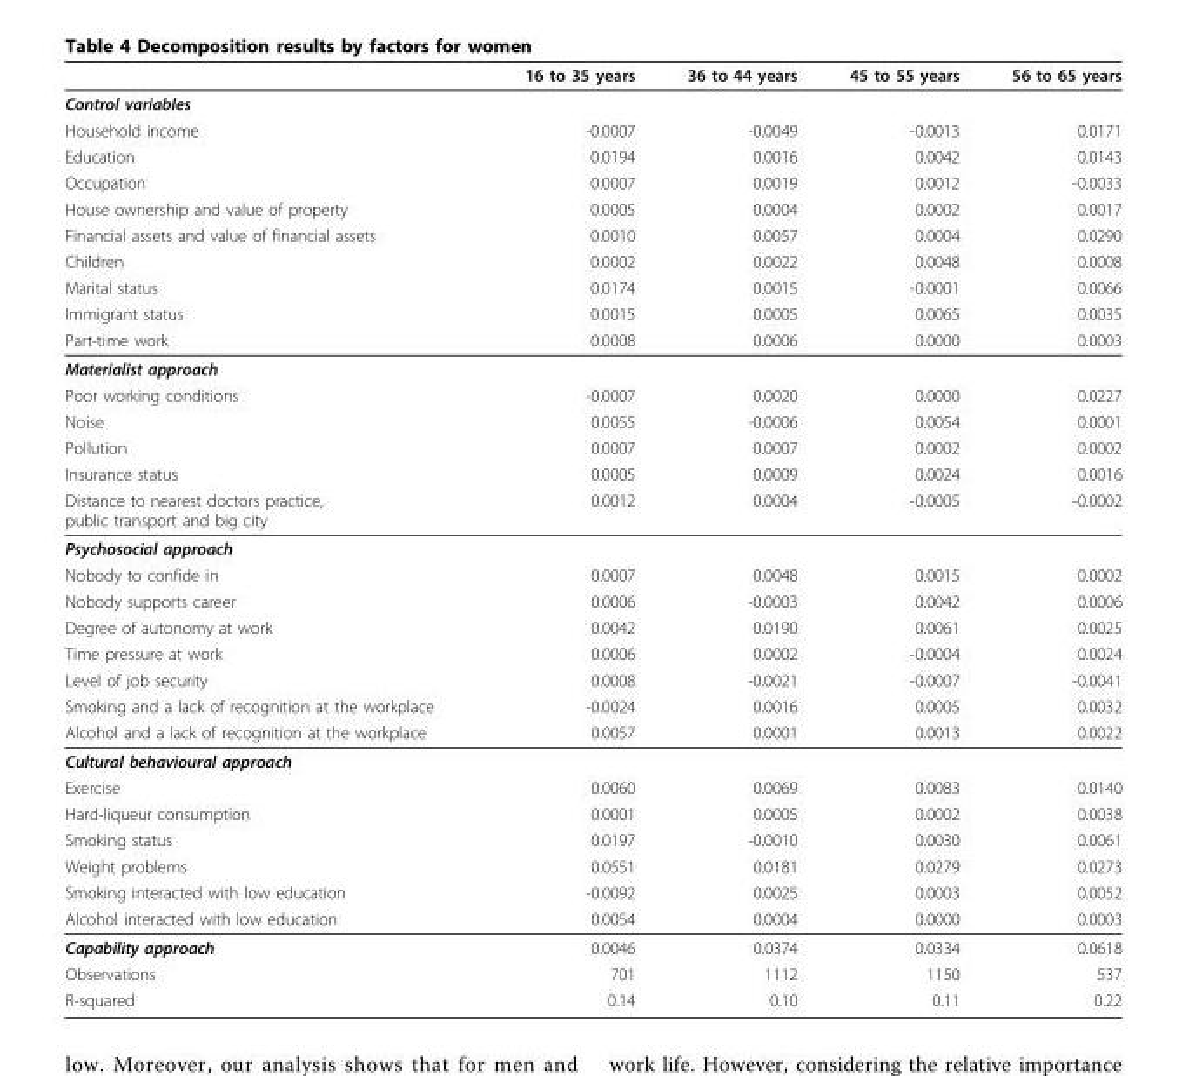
<table><thead><tr><td></td><td>16 to 35 years</td><td>36 to 44 years</td><td>45 to 55 years</td><td>56 to 65 years</td></tr></thead><tbody><tr><td colspan="5">Control variables</td></tr><tr><td>Household income</td><td>-0.0007</td><td>-0.0049</td><td>-0.0013</td><td>0.0171</td></tr><tr><td>Education</td><td>0.0194</td><td>0.0016</td><td>0.0042</td><td>0.0143</td></tr><tr><td>Occupation</td><td>0.0007</td><td>0.0019</td><td>0.0012</td><td>-0.0033</td></tr><tr><td>House ownership and value of property</td><td>0.0005</td><td>0.0004</td><td>0.0002</td><td>0.0017</td></tr><tr><td>Financial assets and value of financial assets</td><td>0.0010</td><td>0.0057</td><td>0.0004</td><td>0.0290</td></tr><tr><td>Children</td><td>0.0002</td><td>0.0022</td><td>0.0048</td><td>0.0008</td></tr><tr><td>Marital status</td><td>0.0174</td><td>0.0015</td><td>-0.0001</td><td>0.0066</td></tr><tr><td>Immigrant status</td><td>0.0015</td><td>0.0005</td><td>0.0065</td><td>0.0035</td></tr><tr><td>Part-time work</td><td>0.0008</td><td>0.0006</td><td>0.0000</td><td>0.0003</td></tr><tr><td colspan="5">Materialist approach</td></tr><tr><td>Poor working conditions</td><td>-0.0007</td><td>0.0020</td><td>0.0000</td><td>0.0227</td></tr><tr><td>Noise</td><td>0.0055</td><td>-0.0006</td><td>0.0054</td><td>0.0001</td></tr><tr><td>Pollution</td><td>0.0007</td><td>0.0007</td><td>0.0002</td><td>0.0002</td></tr><tr><td>Insurance status</td><td>0.0005</td><td>0.0009</td><td>0.0024</td><td>0.0016</td></tr><tr><td>Distance to nearest doctors practice, public transport and big city</td><td>0.0012</td><td>0.0004</td><td>-0.0005</td><td>-0.0002</td></tr><tr><td colspan="5">Psychosocial approach</td></tr><tr><td>Nobody to confide in</td><td>0.0007</td><td>0.0048</td><td>0.0015</td><td>0.0002</td></tr><tr><td>Nobody supports career</td><td>0.0006</td><td>-0.0003</td><td>0.0042</td><td>0.0006</td></tr><tr><td>Degree of autonomy at work</td><td>0.0042</td><td>0.0190</td><td>0.0061</td><td>0.0025</td></tr><tr><td>Time pressure at work</td><td>0.0006</td><td>0.0002</td><td>-0.0004</td><td>0.0024</td></tr><tr><td>Level of job security</td><td>0.0008</td><td>-0.0021</td><td>-0.0007</td><td>-0.0041</td></tr><tr><td>Smoking and a lack of recognition at the workplace</td><td>-0.0024</td><td>0.0016</td><td>0.0005</td><td>0.0032</td></tr><tr><td>Alcohol and a lack of recognition at the workplace</td><td>0.0057</td><td>0.0001</td><td>0.0013</td><td>0.0022</td></tr><tr><td colspan="5">Cultural behavioural approach</td></tr><tr><td>Exercise</td><td>0.0060</td><td>0.0069</td><td>0.0083</td><td>0.0140</td></tr><tr><td>Hard-liqueur consumption</td><td>0.0001</td><td>0.0005</td><td>0.0002</td><td>0.0038</td></tr><tr><td>Smoking status</td><td>0.0197</td><td>-0.0010</td><td>0.0030</td><td>0.0061</td></tr><tr><td>Weight problems</td><td>0.0551</td><td>0.0181</td><td>0.0279</td><td>0.0273</td></tr><tr><td>Smoking interacted with low education</td><td>-0.0092</td><td>0.0025</td><td>0.0003</td><td>0.0052</td></tr><tr><td>Alcohol interacted with low education</td><td>0.0054</td><td>0.0004</td><td>0.0000</td><td>0.0003</td></tr><tr><td>Capability approach</td><td>0.0046</td><td>0.0374</td><td>0.0334</td><td>0.0618</td></tr><tr><td>Observations</td><td>701</td><td>1112</td><td>1150</td><td>537</td></tr><tr><td>R-squared</td><td>0.14</td><td>0.10</td><td>0.11</td><td>0.22</td></tr></tbody></table>